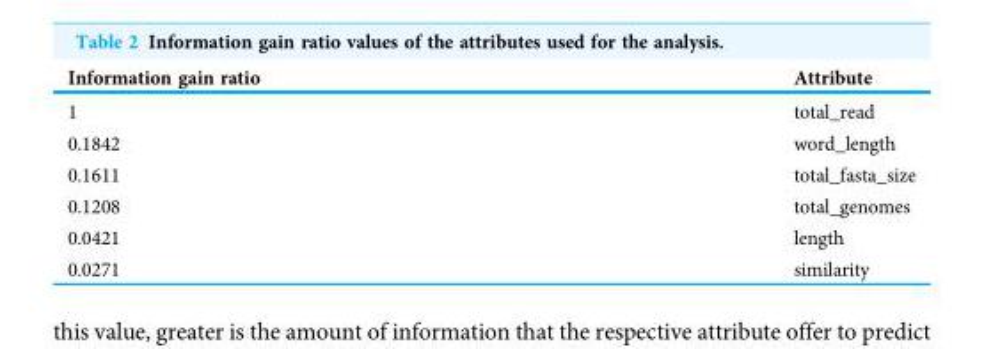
<table><thead><tr><td>Information gain ratio</td><td>Attribute</td></tr></thead><tbody><tr><td>1</td><td>total_read</td></tr><tr><td>0.1842</td><td>word_length</td></tr><tr><td>0.1611</td><td>total_fasta_size</td></tr><tr><td>0.1208</td><td>total_genomes</td></tr><tr><td>0.0421</td><td>length</td></tr><tr><td>0.0271</td><td>similarity</td></tr></tbody></table>